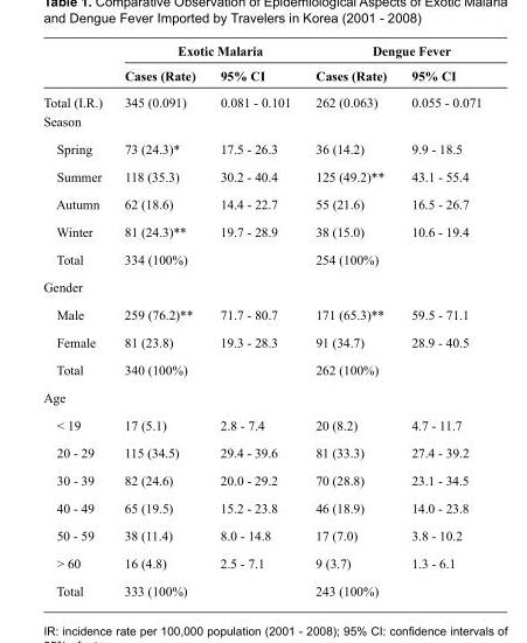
<table><thead><tr><td rowspan="2"></td><td colspan="2">Exotic Malaria</td><td colspan="2">Dengue Fever</td></tr><tr><td>Cases (Rate)</td><td>95% CI</td><td>Cases (Rate)</td><td>95% CI</td></tr></thead><tbody><tr><td>Total (I.R.)</td><td>345 (0.091)</td><td>0.081 - 0.101</td><td>262 (0.063)</td><td>0.055 - 0.071</td></tr><tr><td colspan="5">Season</td></tr><tr><td>Spring</td><td>73 (24.3)*</td><td>17.5 - 26.3</td><td>36 (14.2)</td><td>9.9 - 18.5</td></tr><tr><td>Summer</td><td>118 (35.3)</td><td>30.2 - 40.4</td><td>125 (49.2)**</td><td>43.1 - 55.4</td></tr><tr><td>Autumn</td><td>62 (18.6)</td><td>14.4 - 22.7</td><td>55 (21.6)</td><td>16.5 - 26.7</td></tr><tr><td>Winter</td><td>81 (24.3)**</td><td>19.7 - 28.9</td><td>38 (15.0)</td><td>10.6 - 19.4</td></tr><tr><td>Total</td><td>334 (100%)</td><td></td><td>254 (100%)</td><td></td></tr><tr><td colspan="5">Gender</td></tr><tr><td>Male</td><td>259 (76.2)**</td><td>71.7 - 80.7</td><td>171 (65.3)**</td><td>59.5 - 71.1</td></tr><tr><td>Female</td><td>81 (23.8)</td><td>19.3 - 28.3</td><td>91 (34.7)</td><td>28.9 - 40.5</td></tr><tr><td>Total</td><td>340 (100%)</td><td></td><td>262 (100%)</td><td></td></tr><tr><td colspan="5">Age</td></tr><tr><td>&lt; 19</td><td>17 (5.1)</td><td>2.8 - 7.4</td><td>20 (8.2)</td><td>4.7 - 11.7</td></tr><tr><td>20 - 29</td><td>115 (34.5)</td><td>29.4 - 39.6</td><td>81 (33.3)</td><td>27.4 - 39.2</td></tr><tr><td>30 - 39</td><td>82 (24.6)</td><td>20.0 - 29.2</td><td>70 (28.8)</td><td>23.1 - 34.5</td></tr><tr><td>40 - 49</td><td>65 (19.5)</td><td>15.2 - 23.8</td><td>46 (18.9)</td><td>14.0 - 23.8</td></tr><tr><td>50 - 59</td><td>38 (11.4)</td><td>8.0 - 14.8</td><td>17 (7.0)</td><td>3.8 - 10.2</td></tr><tr><td>&gt; 60</td><td>16 (4.8)</td><td>2.5 - 7.1</td><td>9 (3.7)</td><td>1.3 - 6.1</td></tr><tr><td>Total</td><td>333 (100%)</td><td></td><td>243 (100%)</td><td></td></tr></tbody></table>